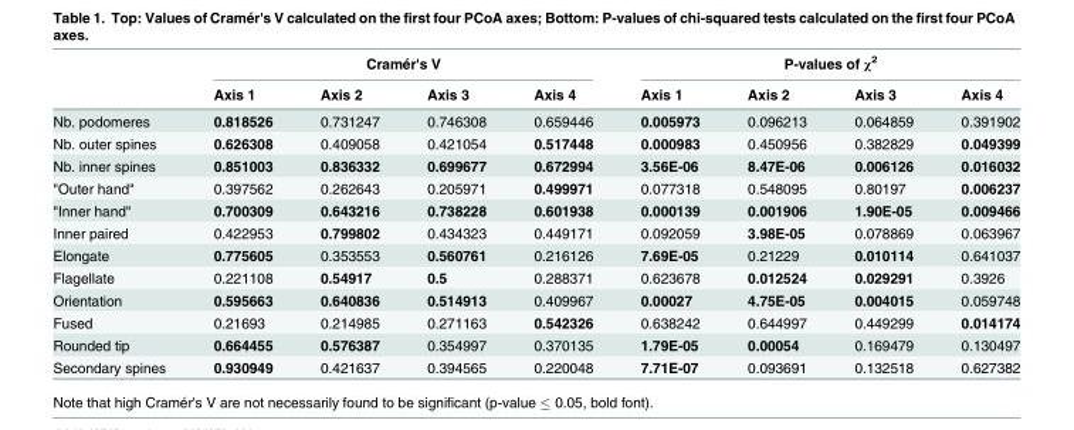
<table><thead><tr><td rowspan="2"></td><td colspan="4">Cramér&#x27;s V</td><td colspan="4">P-values of χ<sup>2</sup></td></tr><tr><td>Axis 1</td><td>Axis 2</td><td>Axis 3</td><td>Axis 4</td><td>Axis 1</td><td>Axis 2</td><td>Axis 3</td><td>Axis 4</td></tr></thead><tbody><tr><td>Nb. podomeres</td><td>0.818526</td><td>0.731247</td><td>0.746308</td><td>0.659446</td><td>0.005973</td><td>0.096213</td><td>0.064859</td><td>0.391902</td></tr><tr><td>Nb. outer spines</td><td>0.626308</td><td>0.409058</td><td>0.421054</td><td>0.517448</td><td>0.000983</td><td>0.450956</td><td>0.382829</td><td>0.049399</td></tr><tr><td>Nb. inner spines</td><td>0.851003</td><td>0.836332</td><td>0.699677</td><td>0.672994</td><td>3.56E-06</td><td>8.47E-06</td><td>0.006126</td><td>0.016032</td></tr><tr><td>&quot;Outer hand&quot;</td><td>0.397562</td><td>0.262643</td><td>0.205971</td><td>0.499971</td><td>0.077318</td><td>0.548095</td><td>0.80197</td><td>0.006237</td></tr><tr><td>&quot;Inner hand&quot;</td><td>0.700309</td><td>0.643216</td><td>0.738228</td><td>0.601938</td><td>0.000139</td><td>0.001906</td><td>1.90E-05</td><td>0.009466</td></tr><tr><td>Inner paired</td><td>0.422953</td><td>0.799802</td><td>0.434323</td><td>0.449171</td><td>0.092059</td><td>3.98E-05</td><td>0.078869</td><td>0.063967</td></tr><tr><td>Elongate</td><td>0.775605</td><td>0.353553</td><td>0.560761</td><td>0.216126</td><td>7.69E-05</td><td>0.21229</td><td>0.010114</td><td>0.641037</td></tr><tr><td>Flagellate</td><td>0.221108</td><td>0.54917</td><td>0.5</td><td>0.288371</td><td>0.623678</td><td>0.012524</td><td>0.029291</td><td>0.3926</td></tr><tr><td>Orientation</td><td>0.595663</td><td>0.640836</td><td>0.514913</td><td>0.409967</td><td>0.00027</td><td>4.75E-05</td><td>0.004015</td><td>0.059748</td></tr><tr><td>Fused</td><td>0.21693</td><td>0.214985</td><td>0.271163</td><td>0.542326</td><td>0.638242</td><td>0.644997</td><td>0.449299</td><td>0.014174</td></tr><tr><td>Rounded tip</td><td>0.664455</td><td>0.576387</td><td>0.354997</td><td>0.370135</td><td>1.79E-05</td><td>0.00054</td><td>0.169479</td><td>0.130497</td></tr><tr><td>Secondary spines</td><td>0.930949</td><td>0.421637</td><td>0.394565</td><td>0.220048</td><td>7.71E-07</td><td>0.093691</td><td>0.132518</td><td>0.627382</td></tr></tbody></table>